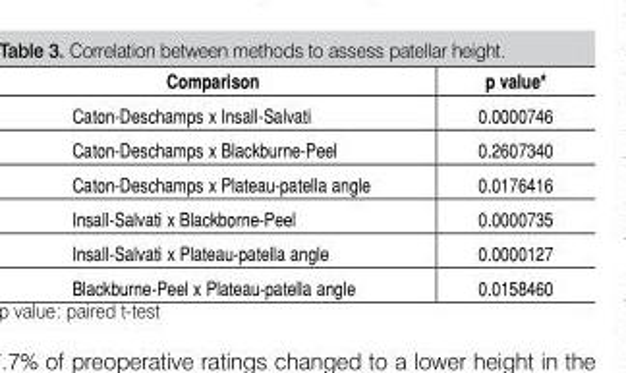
<table><thead><tr><td>Comparison</td><td>p value*</td></tr></thead><tbody><tr><td>Caton-Deschamps x Insall-Salvati</td><td>0.0000746</td></tr><tr><td>Caton-Deschamps x Blackburne-Peel</td><td>0.2607340</td></tr><tr><td>Caton-Deschamps x Plateau-patella angle</td><td>0.0176416</td></tr><tr><td>Insall-Salvati x Blackborne-Peel</td><td>0.0000735</td></tr><tr><td>Insall-Salvati x Plateau-patella angle</td><td>0.0000127</td></tr><tr><td>Blackburne-Peel x Plateau-patella angle</td><td>0.0158460</td></tr></tbody></table>